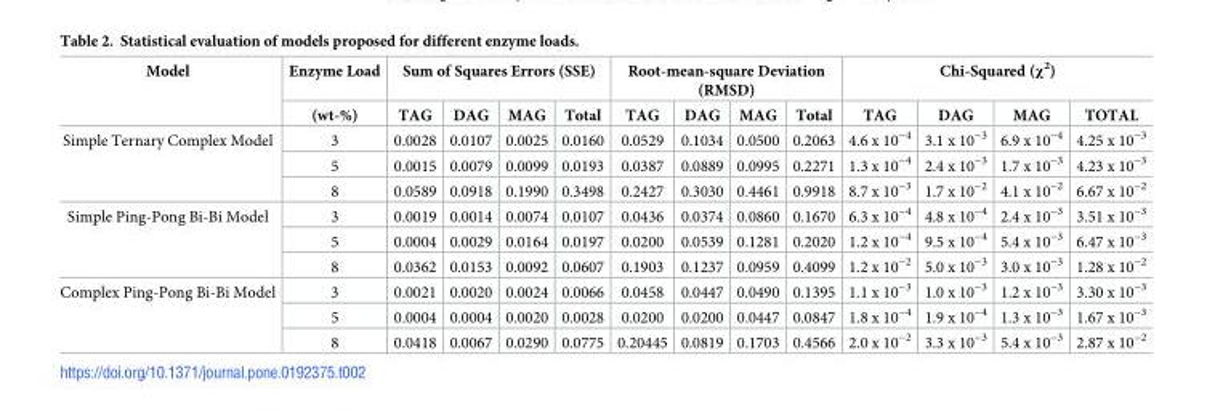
<table><thead><tr><td rowspan="2">Model</td><td rowspan="2">Enzyme Load (wt-%)</td><td colspan="4">Sum of Squares Errors (SSE)</td><td colspan="4">Root-mean-square Deviation (RMSD)</td><td colspan="4">Chi-Squared (χ<sup>2</sup>)</td></tr><tr><td>TAG</td><td>DAG</td><td>MAG</td><td>Total</td><td>TAG</td><td>DAG</td><td>MAG</td><td>Total</td><td>TAG</td><td>DAG</td><td>MAG</td><td>TOTAL</td></tr></thead><tbody><tr><td rowspan="3">Simple Ternary Complex Model</td><td>3</td><td>0.0028</td><td>0.0107</td><td>0.0025</td><td>0.0160</td><td>0.0529</td><td>0.1034</td><td>0.0500</td><td>0.2063</td><td>4.6 x 10<sup>−4</sup></td><td>3.1 x 10<sup>−3</sup></td><td>6.9 x 10<sup>−4</sup></td><td>4.25 x 10<sup>−3</sup></td></tr><tr><td>5</td><td>0.0015</td><td>0.0079</td><td>0.0099</td><td>0.0193</td><td>0.0387</td><td>0.0889</td><td>0.0995</td><td>0.2271</td><td>1.3 x 10<sup>−4</sup></td><td>2.4 x 10<sup>−3</sup></td><td>1.7 x 10<sup>−3</sup></td><td>4.23 x 10<sup>−3</sup></td></tr><tr><td>8</td><td>0.0589</td><td>0.0918</td><td>0.1990</td><td>0.3498</td><td>0.2427</td><td>0.3030</td><td>0.4461</td><td>0.9918</td><td>8.7 x 10<sup>−3</sup></td><td>1.7 x 10<sup>−2</sup></td><td>4.1 x 10<sup>−2</sup></td><td>6.67 x 10<sup>−2</sup></td></tr><tr><td rowspan="3">Simple Ping-Pong Bi-Bi Model</td><td>3</td><td>0.0019</td><td>0.0014</td><td>0.0074</td><td>0.0107</td><td>0.0436</td><td>0.0374</td><td>0.0860</td><td>0.1670</td><td>6.3 x 10<sup>−4</sup></td><td>4.8 x 10<sup>−4</sup></td><td>2.4 x 10<sup>−3</sup></td><td>3.51 x 10<sup>−3</sup></td></tr><tr><td>5</td><td>0.0004</td><td>0.0029</td><td>0.0164</td><td>0.0197</td><td>0.0200</td><td>0.0539</td><td>0.1281</td><td>0.2020</td><td>1.2 x 10<sup>−4</sup></td><td>9.5 x 10<sup>−4</sup></td><td>5.4 x 10<sup>−3</sup></td><td>6.47 x 10<sup>−3</sup></td></tr><tr><td>8</td><td>0.0362</td><td>0.0153</td><td>0.0092</td><td>0.0607</td><td>0.1903</td><td>0.1237</td><td>0.0959</td><td>0.4099</td><td>1.2 x 10<sup>−2</sup></td><td>5.0 x 10<sup>−3</sup></td><td>3.0 x 10<sup>−3</sup></td><td>1.28 x 10<sup>−2</sup></td></tr><tr><td rowspan="3">Complex Ping-Pong Bi-Bi Model</td><td>3</td><td>0.0021</td><td>0.0020</td><td>0.0024</td><td>0.0066</td><td>0.0458</td><td>0.0447</td><td>0.0490</td><td>0.1395</td><td>1.1 x 10<sup>−3</sup></td><td>1.0 x 10<sup>−3</sup></td><td>1.2 x 10<sup>−3</sup></td><td>3.30 x 10<sup>−3</sup></td></tr><tr><td>5</td><td>0.0004</td><td>0.0004</td><td>0.0020</td><td>0.0028</td><td>0.0200</td><td>0.0200</td><td>0.0447</td><td>0.0847</td><td>1.8 x 10<sup>−4</sup></td><td>1.9 x 10<sup>−4</sup></td><td>1.3 x 10<sup>−3</sup></td><td>1.67 x 10<sup>−3</sup></td></tr><tr><td>8</td><td>0.0418</td><td>0.0067</td><td>0.0290</td><td>0.0775</td><td>0.20445</td><td>0.0819</td><td>0.1703</td><td>0.4566</td><td>2.0 x 10<sup>−2</sup></td><td>3.3 x 10<sup>−3</sup></td><td>5.4 x 10<sup>−3</sup></td><td>2.87 x 10<sup>−2</sup></td></tr></tbody></table>